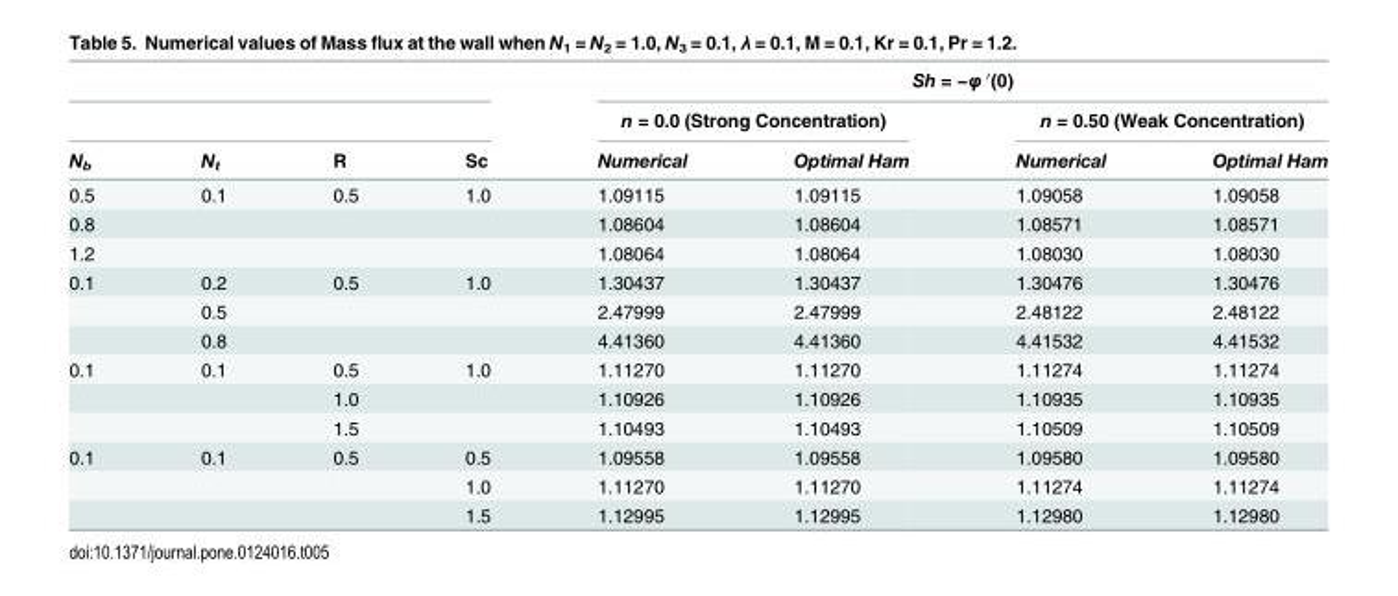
<table><thead><tr><td rowspan="3">N<sub>b</sub></td><td rowspan="3">N<sub>t</sub></td><td rowspan="3">R</td><td rowspan="3">Sc</td><td colspan="4">Sh = −φ ′(0)</td></tr><tr><td colspan="2">n = 0.0 (Strong Concentration)</td><td colspan="2">n = 0.50 (Weak Concentration)</td></tr><tr><td>Numerical</td><td>Optimal Ham</td><td>Numerical</td><td>Optimal Ham</td></tr></thead><tbody><tr><td>0.5</td><td>0.1</td><td>0.5</td><td>1.0</td><td>1.09115</td><td>1.09115</td><td>1.09058</td><td>1.09058</td></tr><tr><td>0.8</td><td></td><td></td><td></td><td>1.08604</td><td>1.08604</td><td>1.08571</td><td>1.08571</td></tr><tr><td>1.2</td><td></td><td></td><td></td><td>1.08064</td><td>1.08064</td><td>1.08030</td><td>1.08030</td></tr><tr><td rowspan="3">0.1</td><td>0.2</td><td>0.5</td><td>1.0</td><td>1.30437</td><td>1.30437</td><td>1.30476</td><td>1.30476</td></tr><tr><td>0.5</td><td></td><td></td><td>2.47999</td><td>2.47999</td><td>2.48122</td><td>2.48122</td></tr><tr><td>0.8</td><td></td><td></td><td>4.41360</td><td>4.41360</td><td>4.41532</td><td>4.41532</td></tr><tr><td rowspan="3">0.1</td><td>0.1</td><td>0.5</td><td>1.0</td><td>1.11270</td><td>1.11270</td><td>1.11274</td><td>1.11274</td></tr><tr><td></td><td>1.0</td><td></td><td>1.10926</td><td>1.10926</td><td>1.10935</td><td>1.10935</td></tr><tr><td></td><td>1.5</td><td></td><td>1.10493</td><td>1.10493</td><td>1.10509</td><td>1.10509</td></tr><tr><td rowspan="3">0.1</td><td>0.1</td><td>0.5</td><td>0.5</td><td>1.09558</td><td>1.09558</td><td>1.09580</td><td>1.09580</td></tr><tr><td></td><td></td><td>1.0</td><td>1.11270</td><td>1.11270</td><td>1.11274</td><td>1.11274</td></tr><tr><td></td><td></td><td>1.5</td><td>1.12995</td><td>1.12995</td><td>1.12980</td><td>1.12980</td></tr></tbody></table>